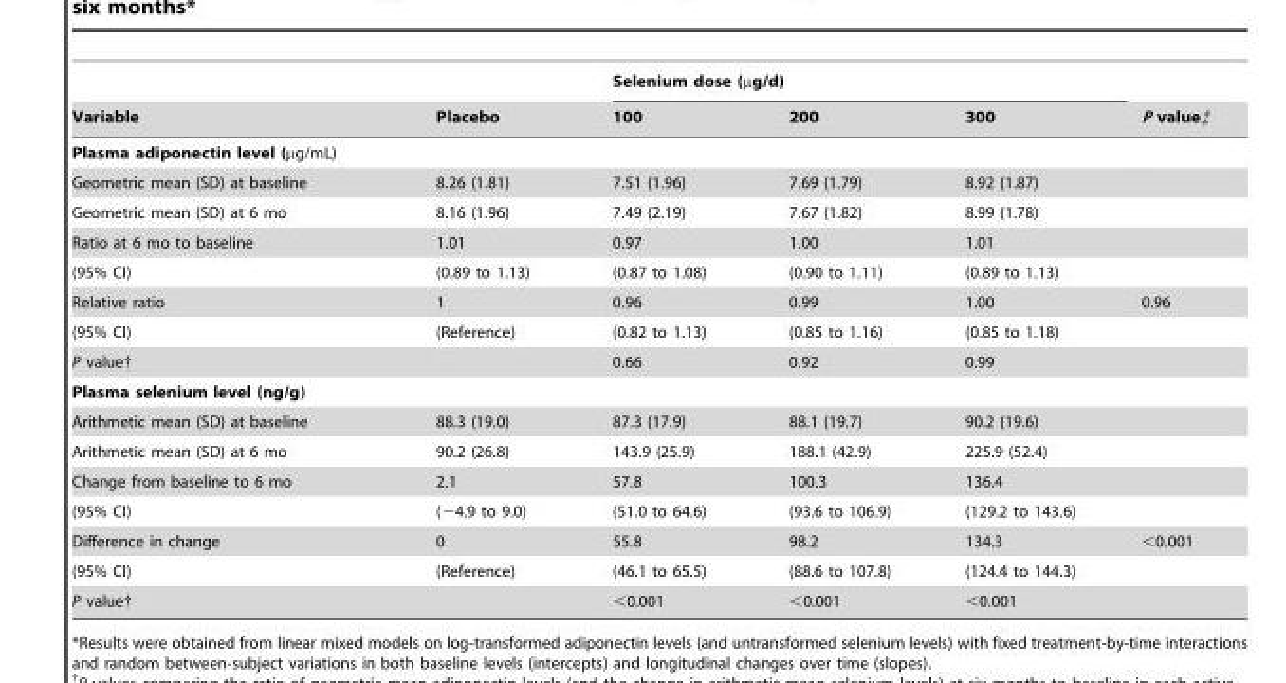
<table><thead><tr><td rowspan="2">Variable</td><td rowspan="2">Placebo</td><td colspan="3">Selenium dose (µg/d)</td><td rowspan="2">P value‡</td></tr><tr><td>100</td><td>200</td><td>300</td></tr></thead><tbody><tr><td colspan="6">Plasma adiponectin level (µg/mL)</td></tr><tr><td>Geometric mean (SD) at baseline</td><td>8.26 (1.81)</td><td>7.51 (1.96)</td><td>7.69 (1.79)</td><td>8.92 (1.87)</td><td></td></tr><tr><td>Geometric mean (SD) at 6 mo</td><td>8.16 (1.96)</td><td>7.49 (2.19)</td><td>7.67 (1.82)</td><td>8.99 (1.78)</td><td></td></tr><tr><td>Ratio at 6 mo to baseline</td><td>1.01</td><td>0.97</td><td>1.00</td><td>1.01</td><td></td></tr><tr><td>(95% CI)</td><td>(0.89 to 1.13)</td><td>(0.87 to 1.08)</td><td>(0.90 to 1.11)</td><td>(0.89 to 1.13)</td><td></td></tr><tr><td>Relative ratio</td><td>1</td><td>0.96</td><td>0.99</td><td>1.00</td><td>0.96</td></tr><tr><td>(95% CI)</td><td>(Reference)</td><td>(0.82 to 1.13)</td><td>(0.85 to 1.16)</td><td>(0.85 to 1.18)</td><td></td></tr><tr><td>P value†</td><td></td><td>0.66</td><td>0.92</td><td>0.99</td><td></td></tr><tr><td colspan="6">Plasma selenium level (ng/g)</td></tr><tr><td>Arithmetic mean (SD) at baseline</td><td>88.3 (19.0)</td><td>87.3 (17.9)</td><td>88.1 (19.7)</td><td>90.2 (19.6)</td><td></td></tr><tr><td>Arithmetic mean (SD) at 6 mo</td><td>90.2 (26.8)</td><td>143.9 (25.9)</td><td>188.1 (42.9)</td><td>225.9 (52.4)</td><td></td></tr><tr><td>Change from baseline to 6 mo</td><td>2.1</td><td>57.8</td><td>100.3</td><td>136.4</td><td></td></tr><tr><td>(95% CI)</td><td>(−4.9 to 9.0)</td><td>(51.0 to 64.6)</td><td>(93.6 to 106.9)</td><td>(129.2 to 143.6)</td><td></td></tr><tr><td>Difference in change</td><td>0</td><td>55.8</td><td>98.2</td><td>134.3</td><td>&lt;0.001</td></tr><tr><td>(95% CI)</td><td>(Reference)</td><td>(46.1 to 65.5)</td><td>(88.6 to 107.8)</td><td>(124.4 to 144.3)</td><td></td></tr><tr><td>P value†</td><td></td><td>&lt;0.001</td><td>&lt;0.001</td><td>&lt;0.001</td><td></td></tr></tbody></table>